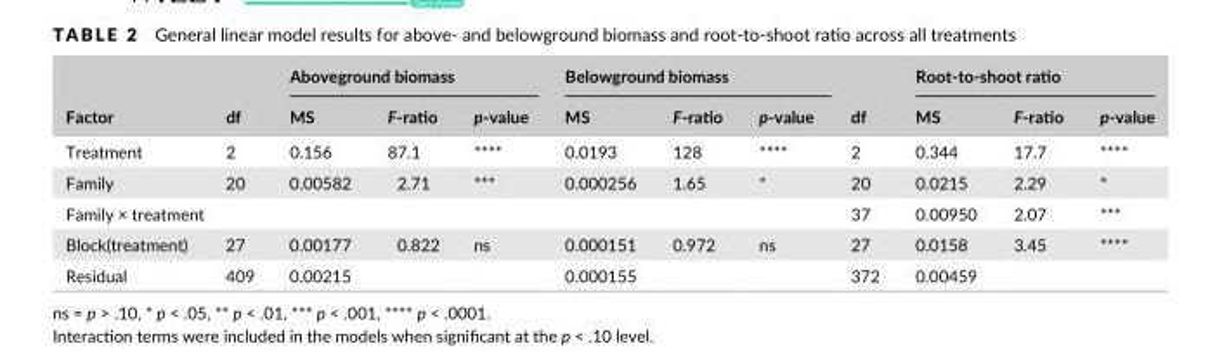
<table><thead><tr><td rowspan="2">Factor</td><td rowspan="2">df</td><td colspan="3">Aboveground biomass</td><td colspan="3">Belowground biomass</td><td rowspan="2">df</td><td colspan="3">Root- to- shoot ratio</td></tr><tr><td>MS</td><td>F- ratio</td><td>p- value</td><td>MS</td><td>F- ratio</td><td>p- value</td><td>MS</td><td>F- ratio</td><td>p- value</td></tr></thead><tbody><tr><td>Treatment</td><td>2</td><td>0.156</td><td>87.1</td><td>****</td><td>0.0193</td><td>128</td><td>****</td><td>2</td><td>0.344</td><td>17.7</td><td>****</td></tr><tr><td>Family</td><td>20</td><td>0.00582</td><td>2.71</td><td>***</td><td>0.000256</td><td>1.65</td><td>*</td><td>20</td><td>0.0215</td><td>2.29</td><td>*</td></tr><tr><td>Family × treatment</td><td></td><td></td><td></td><td></td><td></td><td></td><td></td><td>37</td><td>0.00950</td><td>2.07</td><td>***</td></tr><tr><td>Block(treatment)</td><td>27</td><td>0.00177</td><td>0.822</td><td>ns</td><td>0.000151</td><td>0.972</td><td>ns</td><td>27</td><td>0.0158</td><td>3.45</td><td>****</td></tr><tr><td>Residual</td><td>409</td><td>0.00215</td><td></td><td></td><td>0.000155</td><td></td><td></td><td>372</td><td>0.00459</td><td></td><td></td></tr></tbody></table>